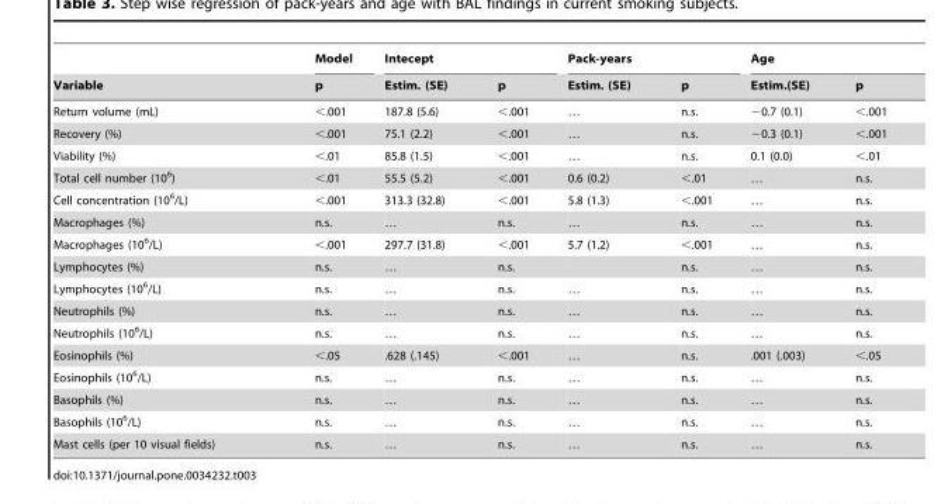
<table><thead><tr><td rowspan="2">Variable</td><td rowspan="2">Model p</td><td colspan="2">Intecept</td><td colspan="2">Pack-years</td><td colspan="2">Age</td></tr><tr><td>Estim. (SE)</td><td>p</td><td>Estim. (SE)</td><td>p</td><td>Estim.(SE)</td><td>p</td></tr></thead><tbody><tr><td>Return volume (mL)</td><td>&lt;.001</td><td>187.8 (5.6)</td><td>&lt;.001</td><td>…</td><td>n.s.</td><td>−0.7 (0.1)</td><td>&lt;.001</td></tr><tr><td>Recovery (%)</td><td>&lt;.001</td><td>75.1 (2.2)</td><td>&lt;.001</td><td>…</td><td>n.s.</td><td>−0.3 (0.1)</td><td>&lt;.001</td></tr><tr><td>Viability (%)</td><td>&lt;.01</td><td>85.8 (1.5)</td><td>&lt;.001</td><td>…</td><td>n.s.</td><td>0.1 (0.0)</td><td>&lt;.01</td></tr><tr><td>Total cell number (10<sup>6</sup>)</td><td>&lt;.01</td><td>55.5 (5.2)</td><td>&lt;.001</td><td>0.6 (0.2)</td><td>&lt;.01</td><td>…</td><td>n.s.</td></tr><tr><td>Cell concentration (10<sup>6</sup>/L)</td><td>&lt;.001</td><td>313.3 (32.8)</td><td>&lt;.001</td><td>5.8 (1.3)</td><td>&lt;.001</td><td>…</td><td>n.s.</td></tr><tr><td>Macrophages (%)</td><td>n.s.</td><td>…</td><td>n.s.</td><td>…</td><td>n.s.</td><td>…</td><td>n.s.</td></tr><tr><td>Macrophages (10<sup>6</sup>/L)</td><td>&lt;.001</td><td>297.7 (31.8)</td><td>&lt;.001</td><td>5.7 (1.2)</td><td>&lt;.001</td><td>…</td><td>n.s.</td></tr><tr><td>Lymphocytes (%)</td><td>n.s.</td><td>…</td><td>n.s.</td><td></td><td>n.s.</td><td>…</td><td>n.s.</td></tr><tr><td>Lymphocytes (10<sup>6</sup>/L)</td><td>n.s.</td><td>…</td><td>n.s.</td><td>…</td><td>n.s.</td><td>…</td><td>n.s.</td></tr><tr><td>Neutrophils (%)</td><td>n.s.</td><td>…</td><td>n.s.</td><td>…</td><td>n.s.</td><td>…</td><td>n.s.</td></tr><tr><td>Neutrophils (10<sup>6</sup>/L)</td><td>n.s.</td><td>…</td><td>n.s.</td><td>…</td><td>n.s.</td><td>…</td><td>n.s.</td></tr><tr><td>Eosinophils (%)</td><td>&lt;.05</td><td>.628 (.145)</td><td>&lt;.001</td><td>…</td><td>n.s.</td><td>.001 (.003)</td><td>&lt;.05</td></tr><tr><td>Eosinophils (10<sup>6</sup>/L)</td><td>n.s.</td><td>…</td><td>n.s.</td><td>…</td><td>n.s.</td><td>…</td><td>n.s.</td></tr><tr><td>Basophils (%)</td><td>n.s.</td><td>…</td><td>n.s.</td><td>…</td><td>n.s.</td><td>…</td><td>n.s.</td></tr><tr><td>Basophils (10<sup>6</sup>/L)</td><td>n.s.</td><td>…</td><td>n.s.</td><td>…</td><td>n.s.</td><td>…</td><td>n.s.</td></tr><tr><td>Mast cells (per 10 visual fields)</td><td>n.s.</td><td>…</td><td>n.s.</td><td>…</td><td>n.s.</td><td>…</td><td>n.s.</td></tr></tbody></table>